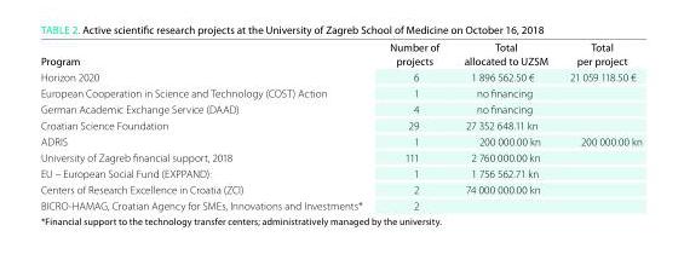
<table><thead><tr><td>Program</td><td>Number of projects</td><td>Total allocated to uZSM</td><td>Total per project</td></tr></thead><tbody><tr><td>Horizon 2020</td><td>6</td><td>1 896 562.50 €</td><td>21 059 118.50 €</td></tr><tr><td>European Cooperation in Science and Technology (COST) Action</td><td>1</td><td>no financing</td><td></td></tr><tr><td>German Academic Exchange Service (DAAD)</td><td>4</td><td>no financing</td><td></td></tr><tr><td>Croatian Science Foundation</td><td>29</td><td>27 352 648.11 kn</td><td></td></tr><tr><td>ADRIS</td><td>1</td><td>200 000.00 kn</td><td>200 000.00 kn</td></tr><tr><td>University of Zagreb financial support, 2018</td><td>111</td><td>2 760 000.00 kn</td><td></td></tr><tr><td>EU – European Social Fund (EXPPAND):</td><td>1</td><td>1 756 562.71 kn</td><td></td></tr><tr><td>Centers of Research Excellence in Croatia (ZCI)</td><td>2</td><td>74 000 000.00 kn</td><td></td></tr><tr><td>BICRO-HAMAG, Croatian Agency for SMEs, Innovations and Investments*</td><td>2</td><td></td><td></td></tr></tbody></table>